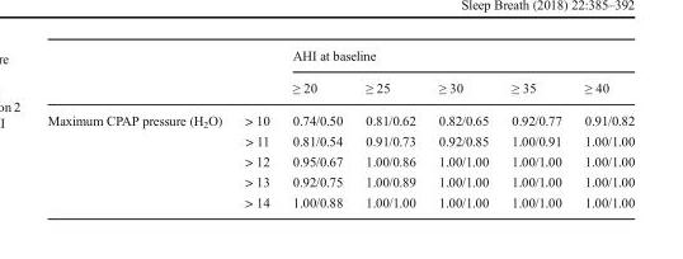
<table><thead><tr><td rowspan="2"></td><td rowspan="2"></td><td colspan="5">AHI at baseline</td></tr><tr><td>≥ 20</td><td>≥ 25</td><td>≥ 30</td><td>≥ 35</td><td>≥ 40</td></tr></thead><tbody><tr><td rowspan="5">Maximum CPAP pressure (H<sub>2</sub>O)</td><td>&gt; 10</td><td>0.74/0.50</td><td>0.81/0.62</td><td>0.82/0.65</td><td>0.92/0.77</td><td>0.91/0.82</td></tr><tr><td>&gt; 11</td><td>0.81/0.54</td><td>0.91/0.73</td><td>0.92/0.85</td><td>1.00/0.91</td><td>1.00/1.00</td></tr><tr><td>&gt; 12</td><td>0.95/0.67</td><td>1.00/0.86</td><td>1.00/1.00</td><td>1.00/1.00</td><td>1.00/1.00</td></tr><tr><td>&gt; 13</td><td>0.92/0.75</td><td>1.00/0.89</td><td>1.00/1.00</td><td>1.00/1.00</td><td>1.00/1.00</td></tr><tr><td>&gt; 14</td><td>1.00/0.88</td><td>1.00/1.00</td><td>1.00/1.00</td><td>1.00/1.00</td><td>1.00/1.00</td></tr></tbody></table>